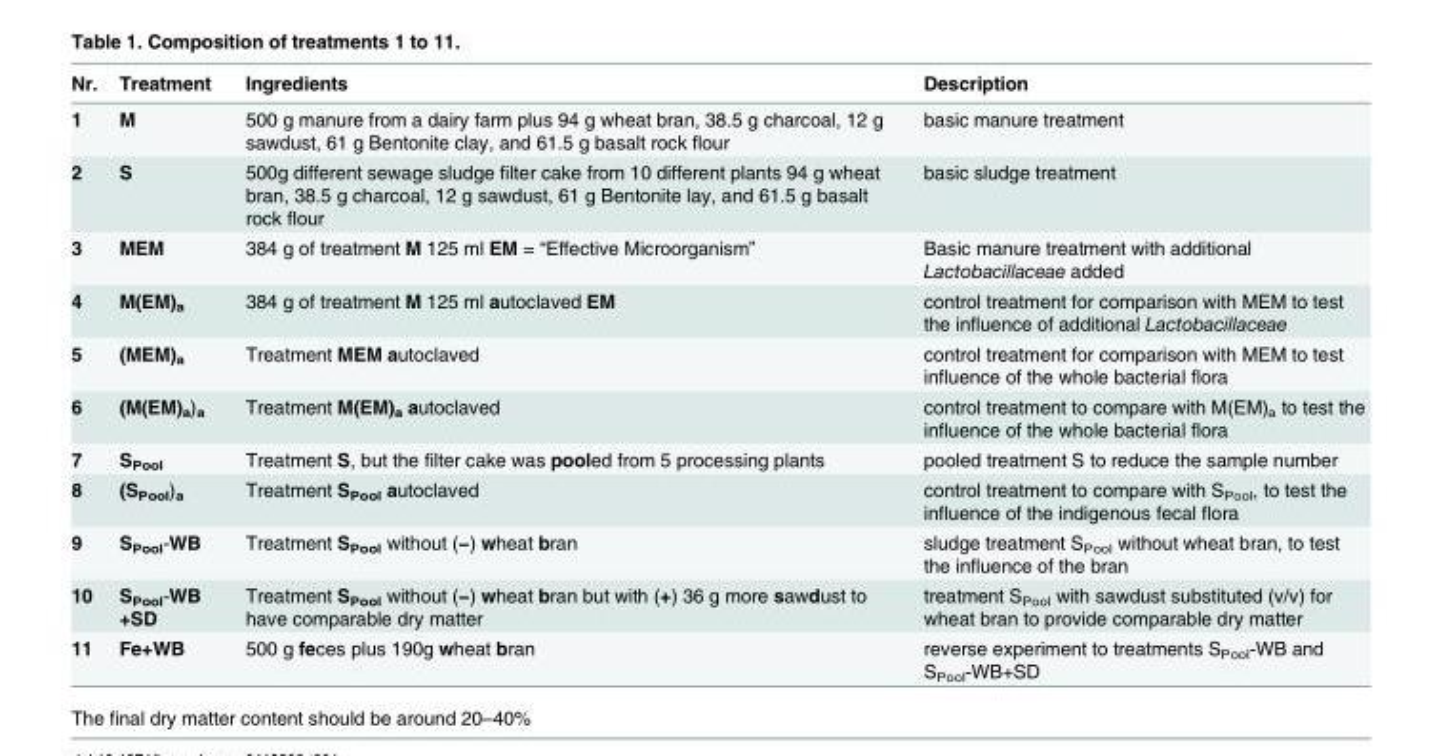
<table><thead><tr><td>Nr.</td><td>Treatment</td><td>Ingredients</td><td>Description</td></tr></thead><tbody><tr><td>1</td><td>M</td><td>500 g manure from a dairy farm plus 94 g wheat bran, 38.5 g charcoal, 12 g sawdust, 61 g Bentonite clay, and 61.5 g basalt rock flour</td><td>basic manure treatment</td></tr><tr><td>2</td><td>S</td><td>500g different sewage sludge filter cake from 10 different plants 94 g wheat bran, 38.5 g charcoal, 12 g sawdust, 61 g Bentonite lay, and 61.5 g basalt rock flour</td><td>basic sludge treatment</td></tr><tr><td>3</td><td>MEM</td><td>384 g of treatment M 125 ml EM = “Effective Microorganism”</td><td>Basic manure treatment with additional Lactobacillaceae added</td></tr><tr><td>4</td><td>M(EM)<sub>a</sub></td><td>384 g of treatment M 125 ml autoclaved EM</td><td>control treatment for comparison with MEM to test the influence of additional Lactobacillaceae</td></tr><tr><td>5</td><td>(MEM)<sub>a</sub></td><td>Treatment MEM autoclaved</td><td>control treatment for comparison with MEM to test influence of the whole bacterial flora</td></tr><tr><td>6</td><td>(M(EM)<sub>a</sub>)<sub>a</sub></td><td>Treatment M(EM)<sub>a</sub> autoclaved</td><td>control treatment to compare with M(EM)<sub>a</sub> to test the influence of the whole bacterial flora</td></tr><tr><td>7</td><td>S<sub>Pool</sub></td><td>Treatment S, but the filter cake was pooled from 5 processing plants</td><td>pooled treatment S to reduce the sample number</td></tr><tr><td>8</td><td>(S<sub>Pool</sub>)<sub>a</sub></td><td>Treatment S<sub>Pool</sub> autoclaved</td><td>control treatment to compare with S<sub>Pool</sub>, to test the influence of the indigenous fecal flora</td></tr><tr><td>9</td><td>S<sub>Pool</sub>-WB</td><td>Treatment S<sub>Pool</sub> without (−) wheat bran</td><td>sludge treatment S<sub>Pool</sub> without wheat bran, to test the influence of the bran</td></tr><tr><td>10</td><td>S<sub>Pool</sub>-WB +SD</td><td>Treatment S<sub>Pool</sub> without (−) wheat bran but with (+) 36 g more sawdust to have comparable dry matter</td><td>treatment S<sub>Pool</sub> with sawdust substituted (v/v) for wheat bran to provide comparable dry matter</td></tr><tr><td>11</td><td>Fe+WB</td><td>500 g feces plus 190g wheat bran</td><td>reverse experiment to treatments S<sub>Pool</sub>-WB and S<sub>Pool</sub>-WB+SD</td></tr></tbody></table>